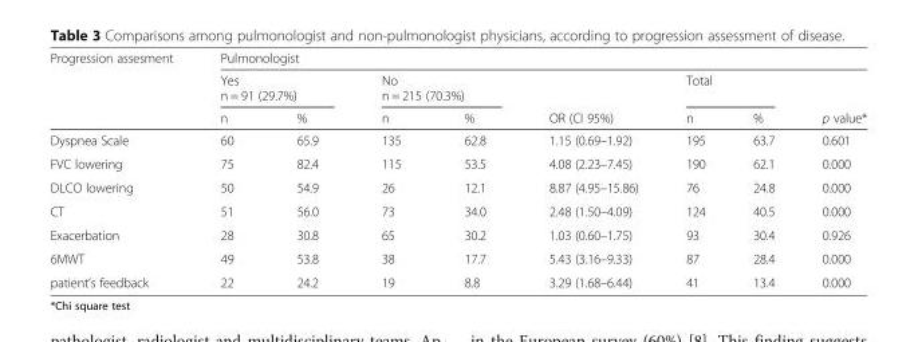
<table><thead><tr><td rowspan="3">Progression assesment</td><td colspan="8">Pulmonologist</td></tr><tr><td colspan="2">Yes n = 91 (29.7%)</td><td colspan="2">No n = 215 (70.3%)</td><td rowspan="2">OR (CI 95%)</td><td colspan="2">Total</td><td rowspan="2">p value*</td></tr><tr><td>n</td><td>%</td><td>n</td><td>%</td><td>n</td><td>%</td></tr></thead><tbody><tr><td>Dyspnea Scale</td><td>60</td><td>65.9</td><td>135</td><td>62.8</td><td>1.15 (0.69–1.92)</td><td>195</td><td>63.7</td><td>0.601</td></tr><tr><td>FVC lowering</td><td>75</td><td>82.4</td><td>115</td><td>53.5</td><td>4.08 (2.23–7.45)</td><td>190</td><td>62.1</td><td>0.000</td></tr><tr><td>DLCO lowering</td><td>50</td><td>54.9</td><td>26</td><td>12.1</td><td>8.87 (4.95–15.86)</td><td>76</td><td>24.8</td><td>0.000</td></tr><tr><td>CT</td><td>51</td><td>56.0</td><td>73</td><td>34.0</td><td>2.48 (1.50–4.09)</td><td>124</td><td>40.5</td><td>0.000</td></tr><tr><td>Exacerbation</td><td>28</td><td>30.8</td><td>65</td><td>30.2</td><td>1.03 (0.60–1.75)</td><td>93</td><td>30.4</td><td>0.926</td></tr><tr><td>6MWT</td><td>49</td><td>53.8</td><td>38</td><td>17.7</td><td>5.43 (3.16–9.33)</td><td>87</td><td>28.4</td><td>0.000</td></tr><tr><td>patient’s feedback</td><td>22</td><td>24.2</td><td>19</td><td>8.8</td><td>3.29 (1.68–6.44)</td><td>41</td><td>13.4</td><td>0.000</td></tr></tbody></table>